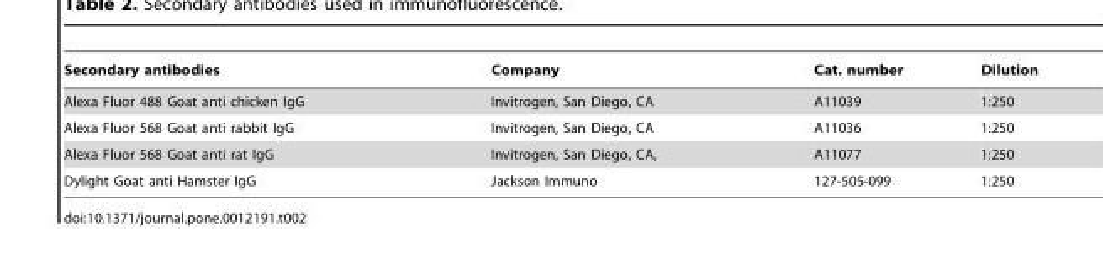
<table><thead><tr><td>Secondary antibodies</td><td>Company</td><td>Cat. number</td><td>Dilution</td></tr></thead><tbody><tr><td>Alexa Fluor 488 Goat anti chicken IgG</td><td>Invitrogen, San Diego, CA</td><td>A11039</td><td>1:250</td></tr><tr><td>Alexa Fluor 568 Goat anti rabbit IgG</td><td>Invitrogen, San Diego, CA</td><td>A11036</td><td>1:250</td></tr><tr><td>Alexa Fluor 568 Goat anti rat IgG</td><td>Invitrogen, San Diego, CA,</td><td>A11077</td><td>1:250</td></tr><tr><td>Dylight Goat anti Hamster IgG</td><td>Jackson Immuno</td><td>127-505-099</td><td>1:250</td></tr></tbody></table>